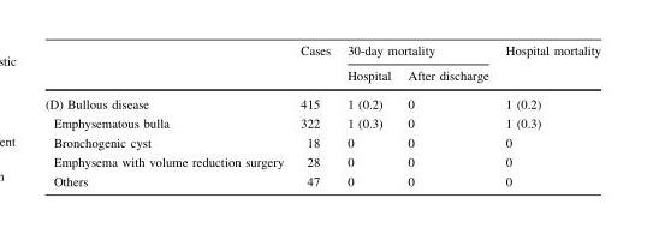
<table><thead><tr><td rowspan="2"></td><td rowspan="2">Cases</td><td colspan="2">30-day mortality</td><td rowspan="2">Hospital mortality</td></tr><tr><td>Hospital</td><td>After discharge</td></tr></thead><tbody><tr><td>(D) Bullous disease</td><td>415</td><td>1 (0.2)</td><td>0</td><td>1 (0.2)</td></tr><tr><td>Emphysematous bulla</td><td>322</td><td>1 (0.3)</td><td>0</td><td>1 (0.3)</td></tr><tr><td>Bronchogenic cyst</td><td>18</td><td>0</td><td>0</td><td>0</td></tr><tr><td>Emphysema with volume reduction surgery</td><td>28</td><td>0</td><td>0</td><td>0</td></tr><tr><td>Others</td><td>47</td><td>0</td><td>0</td><td>0</td></tr></tbody></table>